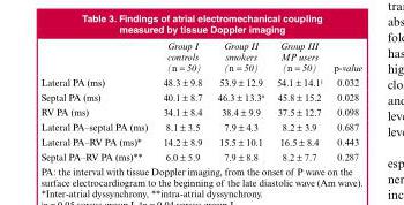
<table><thead><tr><td></td><td>Group I controls (n = 50)</td><td>Group II smokers (n = 50)</td><td>Group III MP users (n = 50)</td><td>p-value</td></tr></thead><tbody><tr><td>Lateral PA (ms)</td><td>48.3 ± 9.8</td><td>53.9 ± 12.9</td><td>54.1 ± 14.1§</td><td>0.032</td></tr><tr><td>Septal PA (ms)</td><td>40.1 ± 8.7</td><td>46.3 ± 13.3#</td><td>45.8 ± 15.2</td><td>0.028</td></tr><tr><td>RV PA (ms)</td><td>34.1 ± 8.4</td><td>38.4 ± 9.9</td><td>37.5 ± 12.7</td><td>0.098</td></tr><tr><td>Lateral PA–septal PA (ms)</td><td>8.1 ± 3.5</td><td>7.9 ± 4.3</td><td>8.2 ± 3.9</td><td>0.687</td></tr><tr><td>Lateral PA–RV PA (ms)*</td><td>14.2 ± 8.9</td><td>15.5 ± 10.1</td><td>16.5 ± 8.4</td><td>0.443</td></tr><tr><td>Septal PA–RV PA (ms)**</td><td>6.0 ± 5.9</td><td>7.9 ± 8.8</td><td>8.2 ± 7.7</td><td>0.287</td></tr></tbody></table>